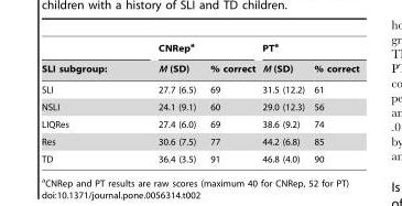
<table><thead><tr><td rowspan="2">SLI subgroup:</td><td colspan="2">CNRep<sup>a</sup></td><td colspan="2">PT<sup>a</sup></td></tr><tr><td>M (SD)</td><td>% correct</td><td>M (SD)</td><td>% correct</td></tr></thead><tbody><tr><td>SLI</td><td>27.7 (6.5)</td><td>69</td><td>31.5 (12.2)</td><td>61</td></tr><tr><td>NSLI</td><td>24.1 (9.1)</td><td>60</td><td>29.0 (12.3)</td><td>56</td></tr><tr><td>LIQRes</td><td>27.4 (6.0)</td><td>69</td><td>38.6 (9.2)</td><td>74</td></tr><tr><td>Res</td><td>30.6 (7.5)</td><td>77</td><td>44.2 (6.8)</td><td>85</td></tr><tr><td>TD</td><td>36.4 (3.5)</td><td>91</td><td>46.8 (4.0)</td><td>90</td></tr></tbody></table>